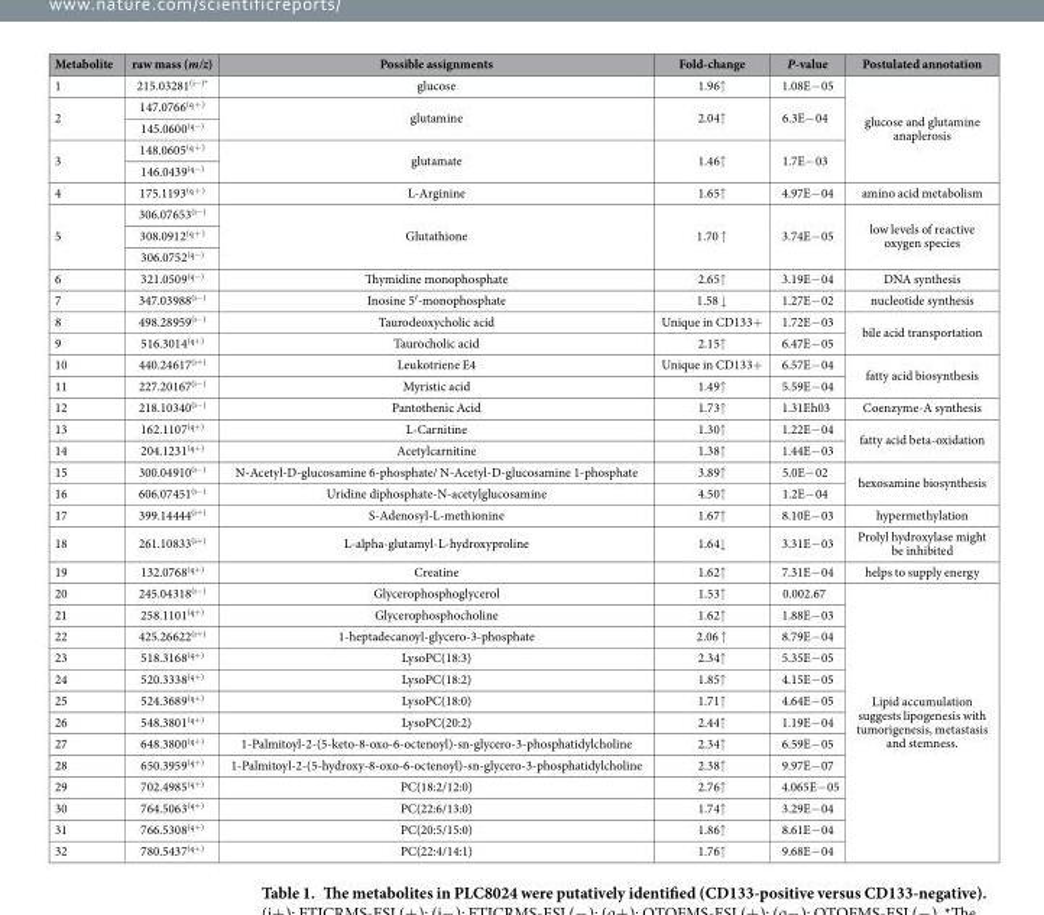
<table><thead><tr><td>Metabolite</td><td>raw mass (m/z)</td><td>Possible assignments</td><td>Fold-change</td><td>P-value</td><td>Postulated annotation</td></tr></thead><tbody><tr><td>1</td><td>215.03281<sup>(i−)</sup>*</td><td>glucose</td><td>1.96↑</td><td>1.08E− 05</td><td rowspan="5">glucose and glutamine anaplerosis</td></tr><tr><td rowspan="2">2</td><td>147.0766<sup>(q + )</sup></td><td rowspan="2">glutamine</td><td rowspan="2">2.04↑</td><td rowspan="2">6.3E− 04</td></tr><tr><td>145.0600<sup>(q−)</sup></td></tr><tr><td rowspan="2">3</td><td>148.0605<sup>(q + )</sup></td><td rowspan="2">glutamate</td><td rowspan="2">1.46↑</td><td rowspan="2">1.7E− 03</td></tr><tr><td>146.0439<sup>(q−)</sup></td></tr><tr><td>4</td><td>175.1193<sup>(q + )</sup></td><td>L-Arginine</td><td>1.65↑</td><td>4.97E− 04</td><td>amino acid metabolism</td></tr><tr><td rowspan="3">5</td><td>306.07653<sup>(i−)</sup></td><td rowspan="3">Glutathione</td><td rowspan="3">1.70 ↑</td><td rowspan="3">3.74E− 05</td><td rowspan="3">low levels of reactive oxygen species</td></tr><tr><td>308.0912<sup>(q + )</sup></td></tr><tr><td>306.0752<sup>(q−)</sup></td></tr><tr><td>6</td><td>321.0509<sup>(q−)</sup></td><td>Thymidine monophosphate</td><td>2.65↑</td><td>3.19E− 04</td><td>DNA synthesis</td></tr><tr><td>7</td><td>347.03988<sup>(i−)</sup></td><td>Inosine 5′-monophosphate</td><td>1.58 ↓</td><td>1.27E− 02</td><td>nucleotide synthesis</td></tr><tr><td>8</td><td>498.28959<sup>(i−)</sup></td><td>Taurodeoxycholic acid</td><td>Unique in CD133+</td><td>1.72E− 03</td><td rowspan="2">bile acid transportation</td></tr><tr><td>9</td><td>516.3014<sup>(q+)</sup></td><td>Taurocholic acid</td><td>2.15↑</td><td>6.47E− 05</td></tr><tr><td>10</td><td>440.24617<sup>(i+)</sup></td><td>Leukotriene E4</td><td>Unique in CD133+</td><td>6.57E− 04</td><td rowspan="2">fatty acid biosynthesis</td></tr><tr><td>11</td><td>227.20167<sup>(i−)</sup></td><td>Myristic acid</td><td>1.49↑</td><td>5.59E− 04</td></tr><tr><td>12</td><td>218.10340<sup>(i−)</sup></td><td>Pantothenic Acid</td><td>1.73↑</td><td>1.31Eh03</td><td>Coenzyme-A synthesis</td></tr><tr><td>13</td><td>162.1107<sup>(q+)</sup></td><td>L-Carnitine</td><td>1.30↑</td><td>1.22E− 04</td><td rowspan="2">fatty acid beta-oxidation</td></tr><tr><td>14</td><td>204.1231<sup>(q+)</sup></td><td>Acetylcarnitine</td><td>1.38↑</td><td>1.44E− 03</td></tr><tr><td>15</td><td>300.04910<sup>(i−)</sup></td><td>N-Acetyl-D-glucosamine 6-phosphate/ N-Acetyl-D-glucosamine 1-phosphate</td><td>3.89↑</td><td>5.0E− 02</td><td rowspan="2">hexosamine biosynthesis</td></tr><tr><td>16</td><td>606.07451<sup>(i−)</sup></td><td>Uridine diphosphate-N-acetylglucosamine</td><td>4.50↑</td><td>1.2E− 04</td></tr><tr><td>17</td><td>399.14444<sup>(i+)</sup></td><td>S-Adenosyl-L-methionine</td><td>1.67↑</td><td>8.10E− 03</td><td>hypermethylation</td></tr><tr><td>18</td><td>261.10833<sup>(i+)</sup></td><td>L-alpha-glutamyl-L-hydroxyproline</td><td>1.64↓</td><td>3.31E− 03</td><td>Prolyl hydroxylase might be inhibited</td></tr><tr><td>19</td><td>132.0768<sup>(q+)</sup></td><td>Creatine</td><td>1.62↑</td><td>7.31E− 04</td><td>helps to supply energy</td></tr><tr><td>20</td><td>245.04318<sup>(i−)</sup></td><td>Glycerophosphoglycerol</td><td>1.53↑</td><td>0.002.67</td><td rowspan="13">Lipid accumulation suggests lipogenesis with tumorigenesis, metastasis and stemness.</td></tr><tr><td>21</td><td>258.1101<sup>(q+)</sup></td><td>Glycerophosphocholine</td><td>1.62↑</td><td>1.88E− 03</td></tr><tr><td>22</td><td>425.26622<sup>(i+)</sup></td><td>1-heptadecanoyl-glycero-3-phosphate</td><td>2.06 ↑</td><td>8.79E− 04</td></tr><tr><td>23</td><td>518.3168<sup>(q+)</sup></td><td>LysoPC(18:3)</td><td>2.34↑</td><td>5.35E− 05</td></tr><tr><td>24</td><td>520.3338<sup>(q+)</sup></td><td>LysoPC(18:2)</td><td>1.85↑</td><td>4.15E− 05</td></tr><tr><td>25</td><td>524.3689<sup>(q+)</sup></td><td>LysoPC(18:0)</td><td>1.71↑</td><td>4.64E− 05</td></tr><tr><td>26</td><td>548.3801<sup>(q+)</sup></td><td>LysoPC(20:2)</td><td>2.44↑</td><td>1.19E− 04</td></tr><tr><td>27</td><td>648.3800<sup>(q+)</sup></td><td>1-Palmitoyl-2-(5-keto-8-oxo-6-octenoyl)-sn-glycero-3-phosphatidylcholine</td><td>2.34↑</td><td>6.59E− 05</td></tr><tr><td>28</td><td>650.3959<sup>(q+)</sup></td><td>1-Palmitoyl-2-(5-hydroxy-8-oxo-6-octenoyl)-sn-glycero-3-phosphatidylcholine</td><td>2.38↑</td><td>9.97E− 07</td></tr><tr><td>29</td><td>702.4985<sup>(q+)</sup></td><td>PC(18:2/12:0)</td><td>2.76↑</td><td>4.065E− 05</td></tr><tr><td>30</td><td>764.5063<sup>(q+)</sup></td><td>PC(22:6/13:0)</td><td>1.74↑</td><td>3.29E− 04</td></tr><tr><td>31</td><td>766.5308<sup>(q+)</sup></td><td>PC(20:5/15:0)</td><td>1.86↑</td><td>8.61E− 04</td></tr><tr><td>32</td><td>780.5437<sup>(q+)</sup></td><td>PC(22:4/14:1)</td><td>1.76↑</td><td>9.68E− 04</td></tr></tbody></table>